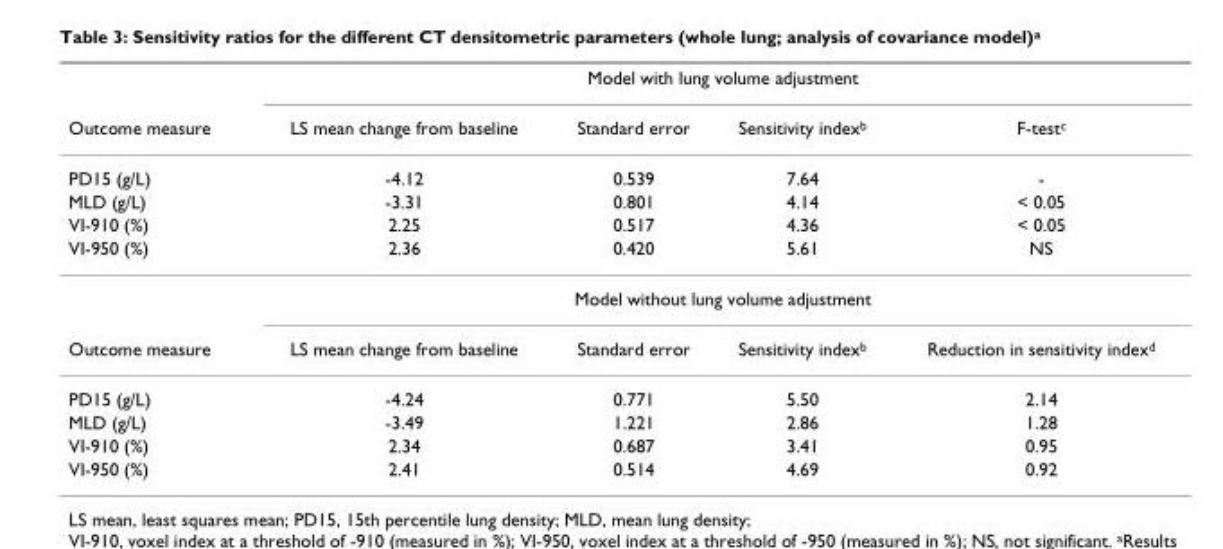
<table><thead><tr><td rowspan="2">Outcome measure</td><td colspan="4">Model with lung volume adjustment</td></tr><tr><td>LS mean change from baseline</td><td>Standard error</td><td>Sensitivity index<sup>b</sup></td><td>F-test<sup>c</sup></td></tr></thead><tbody><tr><td>PD15 (g/L)</td><td>-4.12</td><td>0.539</td><td>7.64</td><td>-</td></tr><tr><td>MLD (g/L)</td><td>-3.31</td><td>0.801</td><td>4.14</td><td>&lt; 0.05</td></tr><tr><td>VI-910 (%)</td><td>2.25</td><td>0.517</td><td>4.36</td><td>&lt; 0.05</td></tr><tr><td rowspan="2">VI-950 (%)</td><td>2.36</td><td>0.420</td><td>5.61</td><td>NS</td></tr><tr><td colspan="4">Model without lung volume adjustment</td></tr><tr><td>Outcome measure</td><td>LS mean change from baseline</td><td>Standard error</td><td>Sensitivity index<sup>b</sup></td><td>Reduction in sensitivity index<sup>d</sup></td></tr><tr><td>PD15 (g/L)</td><td>-4.24</td><td>0.771</td><td>5.50</td><td>2.14</td></tr><tr><td>MLD (g/L)</td><td>-3.49</td><td>1.221</td><td>2.86</td><td>1.28</td></tr><tr><td>VI-910 (%)</td><td>2.34</td><td>0.687</td><td>3.41</td><td>0.95</td></tr><tr><td>VI-950 (%)</td><td>2.41</td><td>0.514</td><td>4.69</td><td>0.92</td></tr></tbody></table>